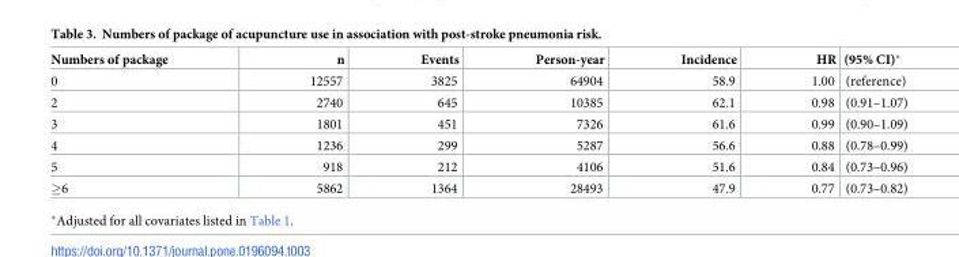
<table><thead><tr><td>Numbers of package</td><td>n</td><td>Events</td><td>Person-year</td><td>Incidence</td><td>HR</td><td>(95% CI)*</td></tr></thead><tbody><tr><td>0</td><td>12557</td><td>3825</td><td>64904</td><td>58.9</td><td>1.00</td><td>(reference)</td></tr><tr><td>2</td><td>2740</td><td>645</td><td>10385</td><td>62.1</td><td>0.98</td><td>(0.91–1.07)</td></tr><tr><td>3</td><td>1801</td><td>451</td><td>7326</td><td>61.6</td><td>0.99</td><td>(0.90–1.09)</td></tr><tr><td>4</td><td>1236</td><td>299</td><td>5287</td><td>56.6</td><td>0.88</td><td>(0.78–0.99)</td></tr><tr><td>5</td><td>918</td><td>212</td><td>4106</td><td>51.6</td><td>0.84</td><td>(0.73–0.96)</td></tr><tr><td>≥6</td><td>5862</td><td>1364</td><td>28493</td><td>47.9</td><td>0.77</td><td>(0.73–0.82)</td></tr></tbody></table>